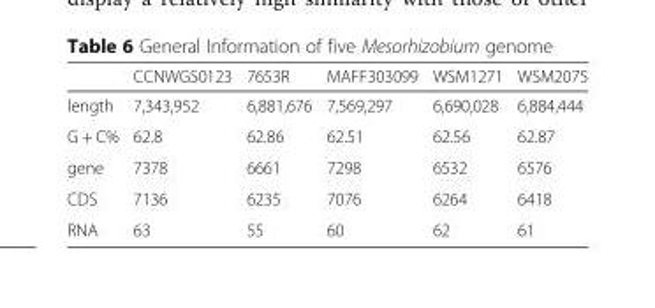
<table><thead><tr><td></td><td>CCNWGS0123</td><td>7653R</td><td>MAFF303099</td><td>WSM1271</td><td>WSM2075</td></tr></thead><tbody><tr><td>length</td><td>7,343,952</td><td>6,881,676</td><td>7,569,297</td><td>6,690,028</td><td>6,884,444</td></tr><tr><td>G + C%</td><td>62.8</td><td>62.86</td><td>62.51</td><td>62.56</td><td>62.87</td></tr><tr><td>gene</td><td>7378</td><td>6661</td><td>7298</td><td>6532</td><td>6576</td></tr><tr><td>CDS</td><td>7136</td><td>6235</td><td>7076</td><td>6264</td><td>6418</td></tr><tr><td>RNA</td><td>63</td><td>55</td><td>60</td><td>62</td><td>61</td></tr></tbody></table>